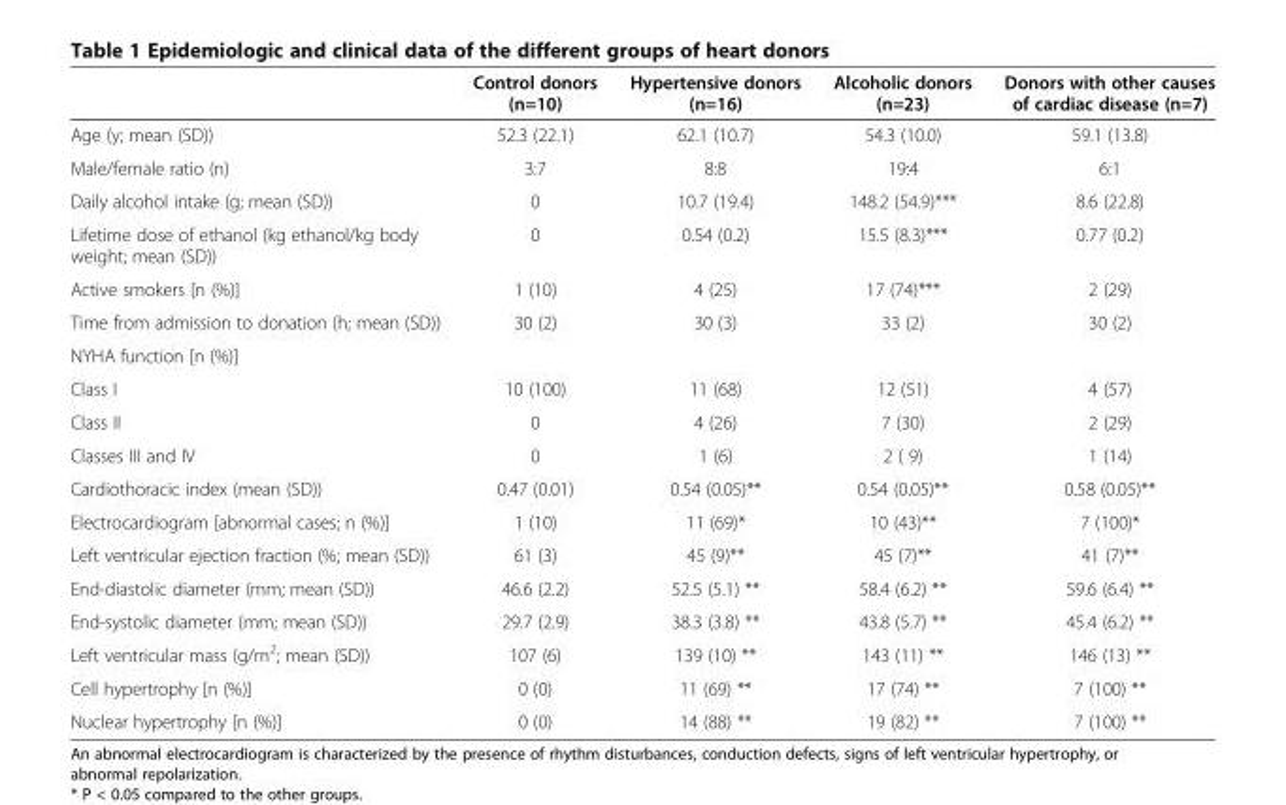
<table><thead><tr><td></td><td>Control donors (n=10)</td><td>Hypertensive donors (n=16)</td><td>Alcoholic donors (n=23)</td><td>Donors with other causes of cardiac disease (n=7)</td></tr></thead><tbody><tr><td>Age (y; mean (SD))</td><td>52.3 (22.1)</td><td>62.1 (10.7)</td><td>54.3 (10.0)</td><td>59.1 (13.8)</td></tr><tr><td>Male/female ratio (n)</td><td>3:7</td><td>8:8</td><td>19:4</td><td>6:1</td></tr><tr><td>Daily alcohol intake (g; mean (SD))</td><td>0</td><td>10.7 (19.4)</td><td>148.2 (54.9)***</td><td>8.6 (22.8)</td></tr><tr><td>Lifetime dose of ethanol (kg ethanol/kg body weight; mean (SD))</td><td>0</td><td>0.54 (0.2)</td><td>15.5 (8.3)***</td><td>0.77 (0.2)</td></tr><tr><td>Active smokers [n (%)]</td><td>1 (10)</td><td>4 (25)</td><td>17 (74)***</td><td>2 (29)</td></tr><tr><td>Time from admission to donation (h; mean (SD))</td><td>30 (2)</td><td>30 (3)</td><td>33 (2)</td><td>30 (2)</td></tr><tr><td colspan="5">NYHA function [n (%)]</td></tr><tr><td>Class I</td><td>10 (100)</td><td>11 (68)</td><td>12 (51)</td><td>4 (57)</td></tr><tr><td>Class II</td><td>0</td><td>4 (26)</td><td>7 (30)</td><td>2 (29)</td></tr><tr><td>Classes III and IV</td><td>0</td><td>1 (6)</td><td>2 ( 9)</td><td>1 (14)</td></tr><tr><td>Cardiothoracic index (mean (SD))</td><td>0.47 (0.01)</td><td>0.54 (0.05)**</td><td>0.54 (0.05)**</td><td>0.58 (0.05)**</td></tr><tr><td>Electrocardiogram [abnormal cases; n (%)]</td><td>1 (10)</td><td>11 (69)*</td><td>10 (43)**</td><td>7 (100)*</td></tr><tr><td>Left ventricular ejection fraction (%; mean (SD))</td><td>61 (3)</td><td>45 (9)**</td><td>45 (7)**</td><td>41 (7)**</td></tr><tr><td>End-diastolic diameter (mm; mean (SD))</td><td>46.6 (2.2)</td><td>52.5 (5.1) **</td><td>58.4 (6.2) **</td><td>59.6 (6.4) **</td></tr><tr><td>End-systolic diameter (mm; mean (SD))</td><td>29.7 (2.9)</td><td>38.3 (3.8) **</td><td>43.8 (5.7) **</td><td>45.4 (6.2) **</td></tr><tr><td>Left ventricular mass (g/m<sup>2</sup>; mean (SD))</td><td>107 (6)</td><td>139 (10) **</td><td>143 (11) **</td><td>146 (13) **</td></tr><tr><td>Cell hypertrophy [n (%)]</td><td>0 (0)</td><td>11 (69) **</td><td>17 (74) **</td><td>7 (100) **</td></tr><tr><td>Nuclear hypertrophy [n (%)]</td><td>0 (0)</td><td>14 (88) **</td><td>19 (82) **</td><td>7 (100) **</td></tr></tbody></table>